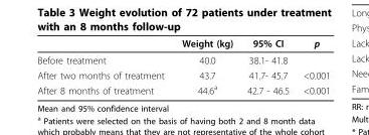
<table><thead><tr><td></td><td>Weight (kg)</td><td>95% CI</td><td>p</td></tr></thead><tbody><tr><td>Before treatment</td><td>40.0</td><td>38.1- 41.8</td><td></td></tr><tr><td>After two months of treatment</td><td>43.7</td><td>41.7- 45.7</td><td>&lt;0.001</td></tr><tr><td>After 8 months of treatment</td><td>44.6<sup>a</sup></td><td>42.7 - 46.5</td><td>&lt;0.001</td></tr></tbody></table>